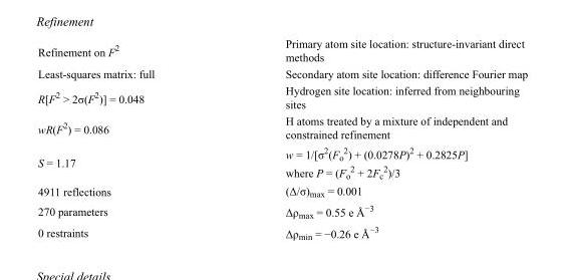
<table><tbody><tr><td>Refinement on F<sup>2</sup></td><td>Primary atom site location: structure-invariant direct methods</td></tr><tr><td>Least-squares matrix: full</td><td>Secondary atom site location: difference Fourier map</td></tr><tr><td>R[F<sup>2</sup> &gt; 2σ(F<sup>2</sup>)] = 0.048</td><td>Hydrogen site location: inferred from neighbouring sites</td></tr><tr><td>wR(F<sup>2</sup>) = 0.086</td><td>H atoms treated by a mixture of independent and constrained refinement</td></tr><tr><td>S = 1.17</td><td>w = 1/[σ<sup>2</sup>(F<sub>o</sub> <sup>2</sup>) + (0.0278P)<sup>2</sup> + 0.2825P] where P = (F<sub>o</sub> <sup>2</sup> + 2F<sub>c</sub> <sup>2</sup>)/3</td></tr><tr><td>4911 reflections</td><td>(Δ/σ)<sub>max</sub> = 0.001</td></tr><tr><td>270 parameters</td><td>Δρ<sub>max</sub> = 0.55 e Å<sup>−3</sup></td></tr><tr><td>0 restraints</td><td>Δρ<sub>min</sub> = −0.26 e Å<sup>−3</sup></td></tr></tbody></table>